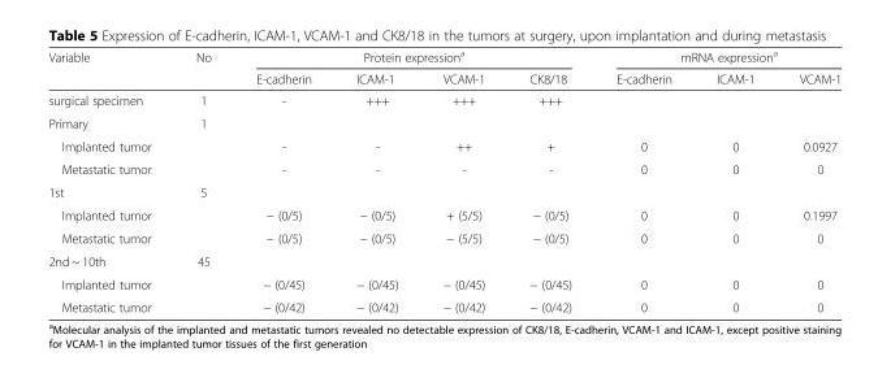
<table><thead><tr><td rowspan="2">Variable</td><td rowspan="2">No</td><td colspan="4">Protein expression<sup>a</sup></td><td colspan="3">mRNA expression<sup>a</sup></td></tr><tr><td>E-cadherin</td><td>ICAM-1</td><td>VCAM-1</td><td>CK8/18</td><td>E-cadherin</td><td>ICAM-1</td><td>VCAM-1</td></tr></thead><tbody><tr><td>surgical specimen</td><td>1</td><td>-</td><td>+++</td><td>+++</td><td>+++</td><td></td><td></td><td></td></tr><tr><td>Primary</td><td>1</td><td></td><td></td><td></td><td></td><td></td><td></td><td></td></tr><tr><td>Implanted tumor</td><td></td><td>-</td><td>-</td><td>++</td><td>+</td><td>0</td><td>0</td><td>0.0927</td></tr><tr><td>Metastatic tumor</td><td></td><td>-</td><td>-</td><td>-</td><td>-</td><td>0</td><td>0</td><td>0</td></tr><tr><td>1st</td><td>5</td><td></td><td></td><td></td><td></td><td></td><td></td><td></td></tr><tr><td>Implanted tumor</td><td></td><td>− (0/5)</td><td>− (0/5)</td><td>+ (5/5)</td><td>− (0/5)</td><td>0</td><td>0</td><td>0.1997</td></tr><tr><td>Metastatic tumor</td><td></td><td>− (0/5)</td><td>− (0/5)</td><td>− (5/5)</td><td>− (0/5)</td><td>0</td><td>0</td><td>0</td></tr><tr><td>2nd ~ 10th</td><td>45</td><td></td><td></td><td></td><td></td><td></td><td></td><td></td></tr><tr><td>Implanted tumor</td><td></td><td>− (0/45)</td><td>− (0/45)</td><td>− (0/45)</td><td>− (0/45)</td><td>0</td><td>0</td><td>0</td></tr><tr><td>Metastatic tumor</td><td></td><td>− (0/42)</td><td>− (0/42)</td><td>− (0/42)</td><td>− (0/42)</td><td>0</td><td>0</td><td>0</td></tr></tbody></table>